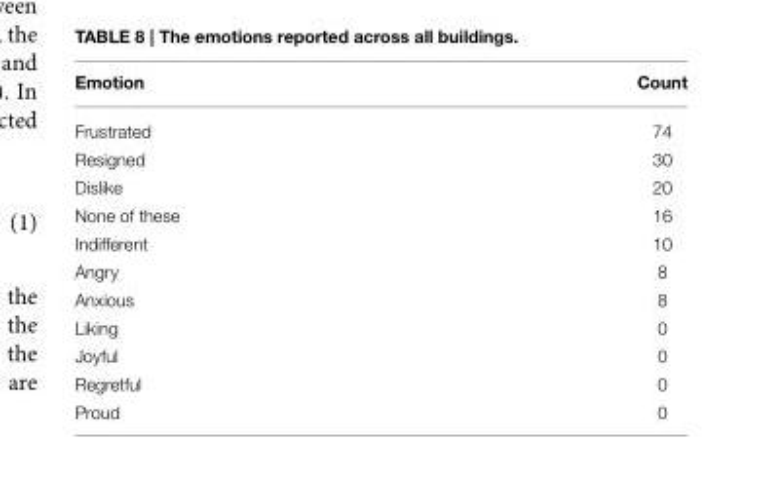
<table><thead><tr><td>Emotion</td><td>Count</td></tr></thead><tbody><tr><td>Frustrated</td><td>74</td></tr><tr><td>Resigned</td><td>30</td></tr><tr><td>Dislike</td><td>20</td></tr><tr><td>None of these</td><td>16</td></tr><tr><td>Indifferent</td><td>10</td></tr><tr><td>Angry</td><td>8</td></tr><tr><td>Anxious</td><td>8</td></tr><tr><td>Liking</td><td>0</td></tr><tr><td>Joyful</td><td>0</td></tr><tr><td>Regretful</td><td>0</td></tr><tr><td>Proud</td><td>0</td></tr></tbody></table>